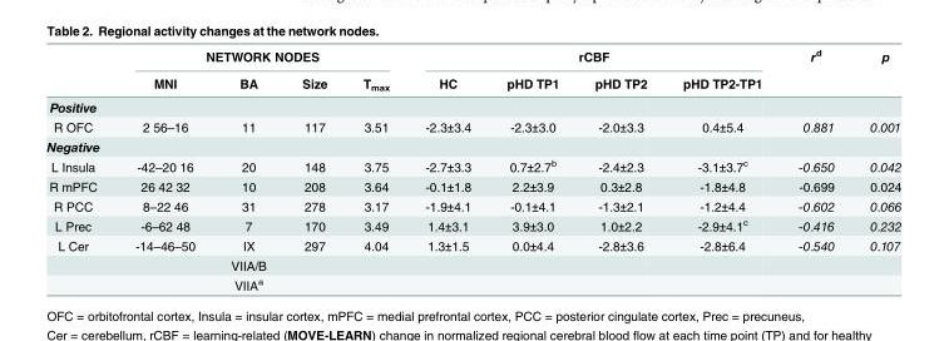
<table><thead><tr><td rowspan="2"></td><td colspan="4">NETWORK NODES</td><td colspan="4">rCBF</td><td rowspan="2">r<sup>d</sup></td><td rowspan="2">p</td></tr><tr><td>MNI</td><td>BA</td><td>Size</td><td>T<sub>max</sub></td><td>HC</td><td>pHD TP1</td><td>pHD TP2</td><td>pHD TP2-TP1</td></tr></thead><tbody><tr><td colspan="11">Positive</td></tr><tr><td>R OFC</td><td>2 56–16</td><td>11</td><td>117</td><td>3.51</td><td>-2.3±3.4</td><td>-2.3±3.0</td><td>-2.0±3.3</td><td>0.4±5.4</td><td>0.881</td><td>0.001</td></tr><tr><td colspan="11">Negative</td></tr><tr><td>L Insula</td><td>-42–20 16</td><td>20</td><td>148</td><td>3.75</td><td>-2.7±3.3</td><td>0.7±2.7<sup>b</sup></td><td>-2.4±2.3</td><td>-3.1±3.7<sup>c</sup></td><td>-0.650</td><td>0.042</td></tr><tr><td>R mPFC</td><td>26 42 32</td><td>10</td><td>208</td><td>3.64</td><td>-0.1±1.8</td><td>2.2±3.9</td><td>0.3±2.8</td><td>-1.8±4.8</td><td>-0.699</td><td>0.024</td></tr><tr><td>R PCC</td><td>8–22 46</td><td>31</td><td>278</td><td>3.17</td><td>-1.9±4.1</td><td>-0.1±4.1</td><td>-1.3±2.1</td><td>-1.2±4.4</td><td>-0.602</td><td>0.066</td></tr><tr><td>L Prec</td><td>-6–62 48</td><td>7</td><td>170</td><td>3.49</td><td>1.4±3.1</td><td>3.9±3.0</td><td>1.0±2.2</td><td>-2.9±4.1<sup>c</sup></td><td>-0.416</td><td>0.232</td></tr><tr><td rowspan="3">L Cer</td><td>-14–46–50</td><td>IX</td><td>297</td><td>4.04</td><td>1.3±1.5</td><td>0.0±4.4</td><td>-2.8±3.6</td><td>-2.8±6.4</td><td>-0.540</td><td>0.107</td></tr><tr><td></td><td>VIIA/B</td><td></td><td></td><td></td><td></td><td></td><td></td><td></td><td></td></tr><tr><td></td><td>VIIA<sup>a</sup></td><td></td><td></td><td></td><td></td><td></td><td></td><td></td><td></td></tr></tbody></table>